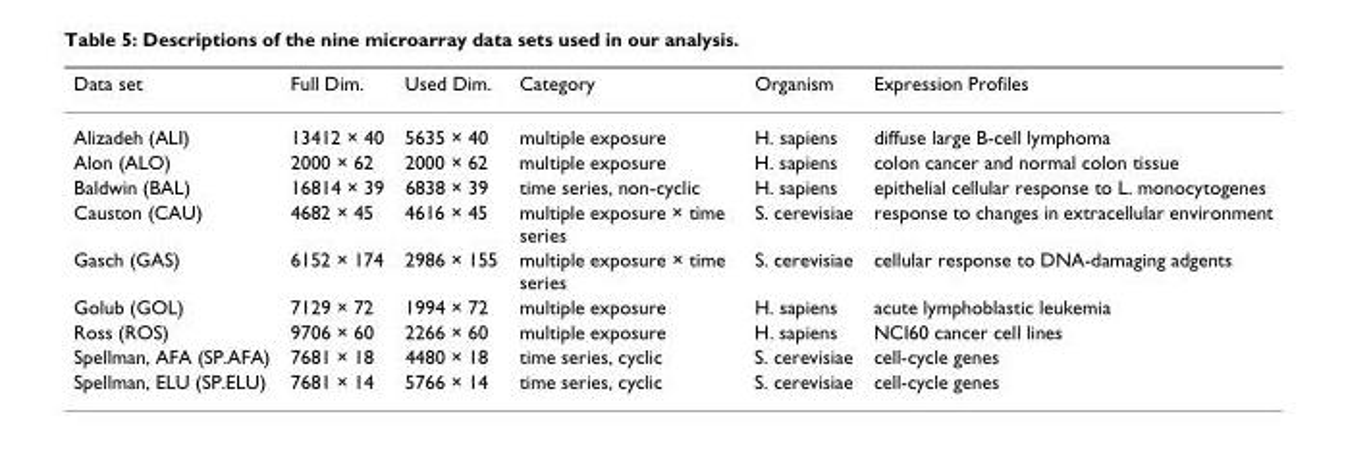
<table><thead><tr><td>Data set</td><td>Full Dim.</td><td>Used Dim.</td><td>Category</td><td>Organism</td><td>Expression Profiles</td></tr></thead><tbody><tr><td>Alizadeh (ALI)</td><td>13412 × 40</td><td>5635 × 40</td><td>multiple exposure</td><td>H. sapiens</td><td>diffuse large B-cell lymphoma</td></tr><tr><td>Alon (ALO)</td><td>2000 × 62</td><td>2000 × 62</td><td>multiple exposure</td><td>H. sapiens</td><td>colon cancer and normal colon tissue</td></tr><tr><td>Baldwin (BAL)</td><td>16814 × 39</td><td>6838 × 39</td><td>time series, non-cyclic</td><td>H. sapiens</td><td>epithelial cellular response to L. monocytogenes</td></tr><tr><td>Causton (CAU)</td><td>4682 × 45</td><td>4616 × 45</td><td>multiple exposure × time series</td><td>S. cerevisiae</td><td>response to changes in extracellular environment</td></tr><tr><td>Gasch (GAS)</td><td>6152 × 174</td><td>2986 × 155</td><td>multiple exposure × time series</td><td>S. cerevisiae</td><td>cellular response to DNA-damaging adgents</td></tr><tr><td>Golub (GOL)</td><td>7129 × 72</td><td>1994 × 72</td><td>multiple exposure</td><td>H. sapiens</td><td>acute lymphoblastic leukemia</td></tr><tr><td>Ross (ROS)</td><td>9706 × 60</td><td>2266 × 60</td><td>multiple exposure</td><td>H. sapiens</td><td>NCI60 cancer cell lines</td></tr><tr><td>Spellman, AFA (SP.AFA)</td><td>7681 × 18</td><td>4480 × 18</td><td>time series, cyclic</td><td>S. cerevisiae</td><td>cell-cycle genes</td></tr><tr><td>Spellman, ELU (SP.ELU)</td><td>7681 × 14</td><td>5766 × 14</td><td>time series, cyclic</td><td>S. cerevisiae</td><td>cell-cycle genes</td></tr></tbody></table>